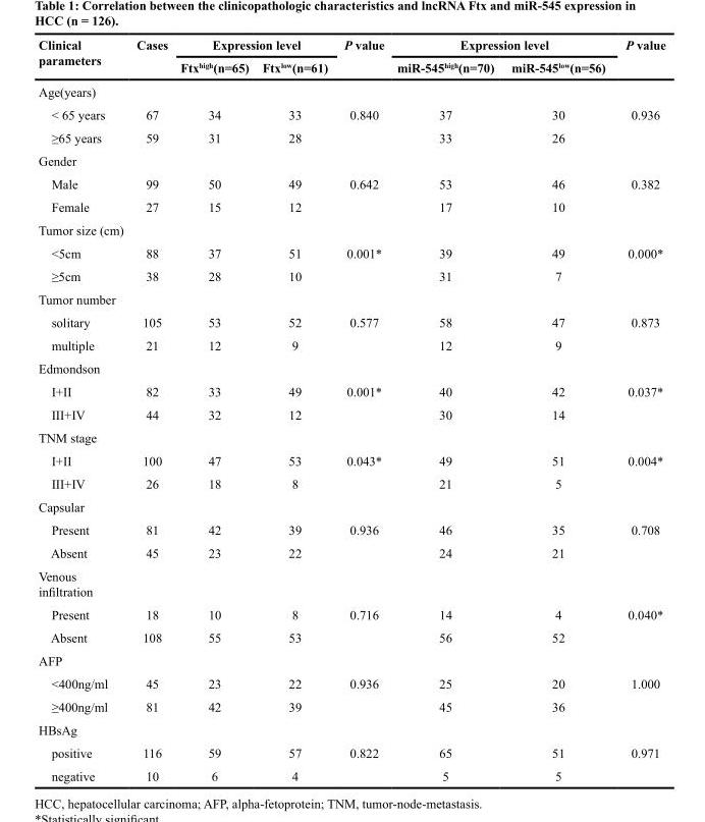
<table><thead><tr><td rowspan="2">Clinical parameters</td><td rowspan="2">Cases</td><td colspan="2">Expression level</td><td rowspan="2">P value</td><td colspan="2">Expression level</td><td rowspan="2">P value</td></tr><tr><td>Ftxhigh(n=65)</td><td>Ftxlow(n=61)</td><td>miR-545high(n=70)</td><td>miR-545low(n=56)</td></tr></thead><tbody><tr><td colspan="8">Age(years)</td></tr><tr><td>&lt; 65 years</td><td>67</td><td>34</td><td>33</td><td>0.840</td><td>37</td><td>30</td><td>0.936</td></tr><tr><td>≥65 years</td><td>59</td><td>31</td><td>28</td><td></td><td>33</td><td>26</td><td></td></tr><tr><td colspan="8">Gender</td></tr><tr><td>Male</td><td>99</td><td>50</td><td>49</td><td>0.642</td><td>53</td><td>46</td><td>0.382</td></tr><tr><td>Female</td><td>27</td><td>15</td><td>12</td><td></td><td>17</td><td>10</td><td></td></tr><tr><td colspan="8">Tumor size (cm)</td></tr><tr><td>&lt;5cm</td><td>88</td><td>37</td><td>51</td><td>0.001*</td><td>39</td><td>49</td><td>0.000*</td></tr><tr><td>≥5cm</td><td>38</td><td>28</td><td>10</td><td></td><td>31</td><td>7</td><td></td></tr><tr><td colspan="8">Tumor number</td></tr><tr><td>solitary</td><td>105</td><td>53</td><td>52</td><td>0.577</td><td>58</td><td>47</td><td>0.873</td></tr><tr><td>multiple</td><td>21</td><td>12</td><td>9</td><td></td><td>12</td><td>9</td><td></td></tr><tr><td colspan="8">Edmondson</td></tr><tr><td>I+II</td><td>82</td><td>33</td><td>49</td><td>0.001*</td><td>40</td><td>42</td><td>0.037*</td></tr><tr><td>III+IV</td><td>44</td><td>32</td><td>12</td><td></td><td>30</td><td>14</td><td></td></tr><tr><td colspan="8">TNM stage</td></tr><tr><td>I+II</td><td>100</td><td>47</td><td>53</td><td>0.043*</td><td>49</td><td>51</td><td>0.004*</td></tr><tr><td>III+IV</td><td>26</td><td>18</td><td>8</td><td></td><td>21</td><td>5</td><td></td></tr><tr><td colspan="8">Capsular</td></tr><tr><td>Present</td><td>81</td><td>42</td><td>39</td><td>0.936</td><td>46</td><td>35</td><td>0.708</td></tr><tr><td>Absent</td><td>45</td><td>23</td><td>22</td><td></td><td>24</td><td>21</td><td></td></tr><tr><td colspan="8">Venous infiltration</td></tr><tr><td>Present</td><td>18</td><td>10</td><td>8</td><td>0.716</td><td>14</td><td>4</td><td>0.040*</td></tr><tr><td>Absent</td><td>108</td><td>55</td><td>53</td><td></td><td>56</td><td>52</td><td></td></tr><tr><td colspan="8">AFP</td></tr><tr><td>&lt;400ng/ml</td><td>45</td><td>23</td><td>22</td><td>0.936</td><td>25</td><td>20</td><td>1.000</td></tr><tr><td>≥400ng/ml</td><td>81</td><td>42</td><td>39</td><td></td><td>45</td><td>36</td><td></td></tr><tr><td colspan="8">HBsAg</td></tr><tr><td>positive</td><td>116</td><td>59</td><td>57</td><td>0.822</td><td>65</td><td>51</td><td>0.971</td></tr><tr><td>negative</td><td>10</td><td>6</td><td>4</td><td></td><td>5</td><td>5</td><td></td></tr></tbody></table>